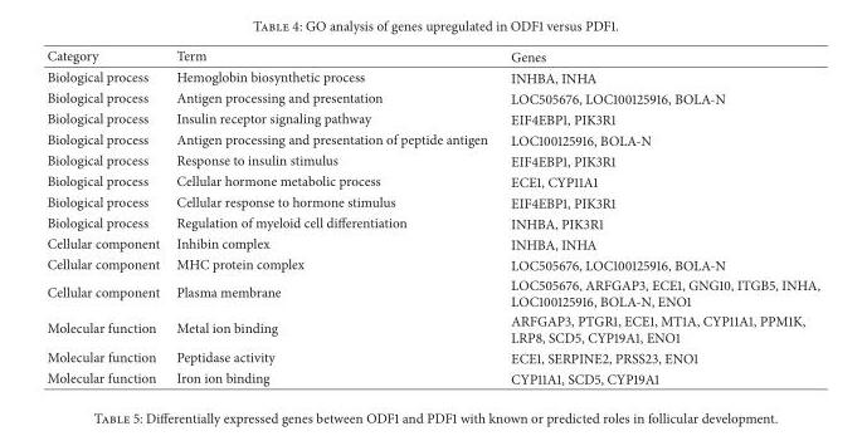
<table><thead><tr><td>Category</td><td>Term</td><td>Genes</td></tr></thead><tbody><tr><td>Biological process</td><td>Hemoglobin biosynthetic process</td><td>INHBA, INHA</td></tr><tr><td>Biological process</td><td>Antigen processing and presentation</td><td>LOC505676, LOC100125916, BOLA-N</td></tr><tr><td>Biological process</td><td>Insulin receptor signaling pathway</td><td>EIF4EBP1, PIK3R1</td></tr><tr><td>Biological process</td><td>Antigen processing and presentation of peptide antigen</td><td>LOC100125916, BOLA-N</td></tr><tr><td>Biological process</td><td>Response to insulin stimulus</td><td>EIF4EBP1, PIK3R1</td></tr><tr><td>Biological process</td><td>Cellular hormone metabolic process</td><td>ECE1, CYP11A1</td></tr><tr><td>Biological process</td><td>Cellular response to hormone stimulus</td><td>EIF4EBP1, PIK3R1</td></tr><tr><td>Biological process</td><td>Regulation of myeloid cell differentiation</td><td>INHBA, PIK3R1</td></tr><tr><td>Cellular component</td><td>Inhibin complex</td><td>INHBA, INHA</td></tr><tr><td>Cellular component</td><td>MHC protein complex</td><td>LOC505676, LOC100125916, BOLA-N</td></tr><tr><td>Cellular component</td><td>Plasma membrane</td><td>LOC505676, ARFGAP3, ECE1, GNG10, ITGB5, INHA, LOC100125916, BOLA-N, ENO1</td></tr><tr><td>Molecular function</td><td>Metal ion binding</td><td>ARFGAP3, PTGR1, ECE1, MT1A, CYP11A1, PPM1K, LRP8, SCD5, CYP19A1, ENO1</td></tr><tr><td>Molecular function</td><td>Peptidase activity</td><td>ECE1, SERPINE2, PRSS23, ENO1</td></tr><tr><td>Molecular function</td><td>Iron ion binding</td><td>CYP11A1, SCD5, CYP19A1</td></tr></tbody></table>